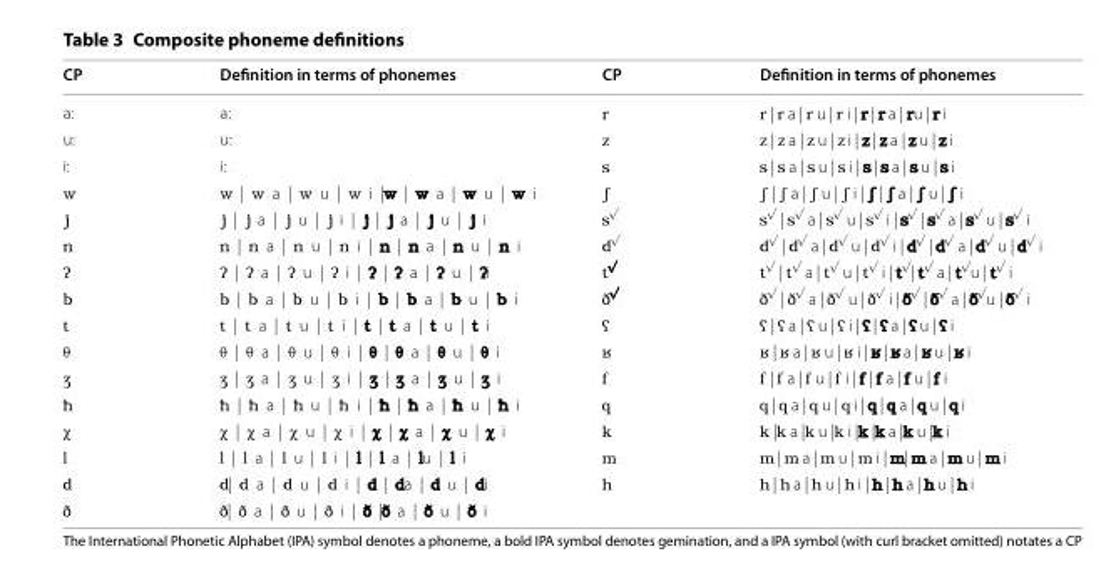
<table><thead><tr><td>CP</td><td>Definition in terms of phonemes</td><td>CP</td><td>Definition in terms of phonemes</td></tr></thead><tbody><tr><td>a:</td><td>a:</td><td>6</td><td>6 | 6 a | 6 u | 6 i | 6 | 6 a | 6u | 6 i</td></tr><tr><td>u:</td><td>u:</td><td>A</td><td>A | A a | A u | A i | A | A a | A u | A i</td></tr><tr><td>i:</td><td>i:</td><td>@</td><td>@ | @ a | @ u | @ i | @ | @ a | @ u | @ i</td></tr><tr><td>f</td><td>f | f a | f u | f i |f | f a | f u | f i</td><td>B</td><td>B | B a | B u | B i | B | B a | B u | B i</td></tr><tr><td>U</td><td>U | U a | U u | U i | U | U a | U u | U i</td><td>@<sup>√</sup></td><td>@<sup>√</sup> | @<sup>√</sup> a | @<sup>√</sup> u | @<sup>√</sup> i | @<sup>√</sup> | @<sup>√</sup> a | @<sup>√</sup> u | @<sup>√</sup> i</td></tr><tr><td>0</td><td>0 | 0 a | 0 u | 0 i | 0 | 0 a | 0 u | 0 i</td><td>$<sup>√</sup></td><td>$<sup>√</sup> | $<sup>√</sup> a | $<sup>√</sup> u | $<sup>√</sup> i | $<sup>√</sup> | $<sup>√</sup> a | $<sup>√</sup> u | $<sup>√</sup> i</td></tr><tr><td>-</td><td>- | - a | - u | - i | - | - a | - u | -i</td><td>#<sup>√</sup></td><td>#<sup>√</sup> | #<sup>√</sup> a | #<sup>√</sup> u | #<sup>√</sup> i | #<sup>√</sup>| #<sup>√</sup> a | #<sup>√</sup>u | #<sup>√</sup> i</td></tr><tr><td>&quot;</td><td>&quot; | &quot; a | &quot; u | &quot; i | &quot; | &quot; a | &quot; u | &quot; i</td><td>?<sup>√</sup></td><td>?<sup>√</sup> | ?<sup>√</sup> a | ?<sup>√</sup> u | ?<sup>√</sup> i | ?<sup>√</sup> | ?<sup>√</sup> a | ?<sup>√</sup>u | ?<sup>√</sup> i</td></tr><tr><td>#</td><td># | # a | # u | # i | # | # a | # u | # i</td><td>M</td><td>M | M a | M u | M i | M | M a | M u | M i</td></tr><tr><td>&gt;</td><td>&gt; | &gt; a | &gt; u | &gt; i | &gt; | &gt; a | &gt; u | &gt; i</td><td>K</td><td>K | K a | K u | K i | K | K a | K u | K i</td></tr><tr><td>C</td><td>C | C a | C u | C i | C | C a | C u | C i</td><td>&lt;</td><td>&lt; | &lt; a | &lt; u | &lt; i | &lt; | &lt; a | &lt; u | &lt; i</td></tr><tr><td>L</td><td>L | L a | L u | L i | L | L a | L u | L i</td><td>+</td><td>+ | + a | + u | + i | + | + a | + u | + i</td></tr><tr><td>J</td><td>J | J a | J u | J i | J | J a | J u | J i</td><td>)</td><td>) |) a |) u |) i |) |) a |) u |) i</td></tr><tr><td>W</td><td>W | W a | W u | W i | W | W a | Wu | W i</td><td>.</td><td>. | . a | . u | . i | .| . a | . u | . i</td></tr><tr><td>$</td><td>$| $ a | $ u | $ i | $ | $a | $ u | $i</td><td>N</td><td>N | N a | N u | N i | N | N a | N u | N i</td></tr><tr><td>?</td><td>?| ? a | ? u | ? i | ? |? a | ? u | ? i</td><td></td><td></td></tr></tbody></table>